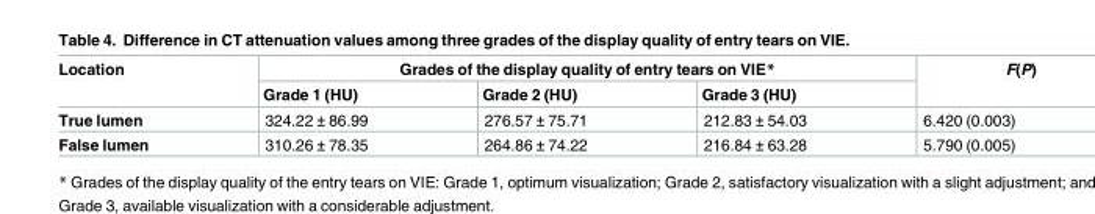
<table><thead><tr><td rowspan="2">Location</td><td colspan="3">Grades of the display quality of entry tears on VIE*</td><td rowspan="2">F(P)</td></tr><tr><td>Grade 1 (HU)</td><td>Grade 2 (HU)</td><td>Grade 3 (HU)</td></tr></thead><tbody><tr><td>True lumen</td><td>324.22 ± 86.99</td><td>276.57 ± 75.71</td><td>212.83 ± 54.03</td><td>6.420 (0.003)</td></tr><tr><td>False lumen</td><td>310.26 ± 78.35</td><td>264.86 ± 74.22</td><td>216.84 ± 63.28</td><td>5.790 (0.005)</td></tr></tbody></table>